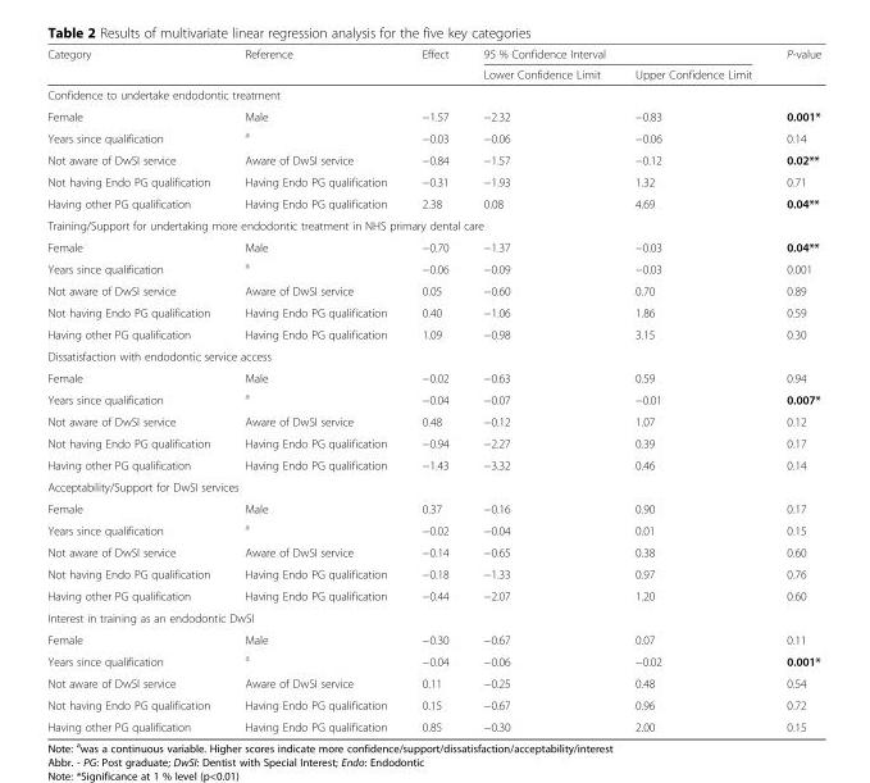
<table><thead><tr><td rowspan="2">Category</td><td rowspan="2">Reference</td><td rowspan="2">Effect</td><td colspan="2">95 % Confidence Interval</td><td rowspan="2">P-value</td></tr><tr><td>Lower Confidence Limit</td><td>Upper Confidence Limit</td></tr></thead><tbody><tr><td colspan="6">Confidence to undertake endodontic treatment</td></tr><tr><td>Female</td><td>Male</td><td>−1.57</td><td>−2.32</td><td>−0.83</td><td>0.001*</td></tr><tr><td>Years since qualification</td><td><sup>a</sup></td><td>−0.03</td><td>−0.06</td><td>−0.06</td><td>0.14</td></tr><tr><td>Not aware of DwSI service</td><td>Aware of DwSI service</td><td>−0.84</td><td>−1.57</td><td>−0.12</td><td>0.02**</td></tr><tr><td>Not having Endo PG qualification</td><td>Having Endo PG qualification</td><td>−0.31</td><td>−1.93</td><td>1.32</td><td>0.71</td></tr><tr><td>Having other PG qualification</td><td>Having Endo PG qualification</td><td>2.38</td><td>0.08</td><td>4.69</td><td>0.04**</td></tr><tr><td colspan="6">Training/Support for undertaking more endodontic treatment in NHS primary dental care</td></tr><tr><td>Female</td><td>Male</td><td>−0.70</td><td>−1.37</td><td>−0.03</td><td>0.04**</td></tr><tr><td>Years since qualification</td><td><sup>a</sup></td><td>−0.06</td><td>−0.09</td><td>−0.03</td><td>0.001</td></tr><tr><td>Not aware of DwSI service</td><td>Aware of DwSI service</td><td>0.05</td><td>−0.60</td><td>0.70</td><td>0.89</td></tr><tr><td>Not having Endo PG qualification</td><td>Having Endo PG qualification</td><td>0.40</td><td>−1.06</td><td>1.86</td><td>0.59</td></tr><tr><td>Having other PG qualification</td><td>Having Endo PG qualification</td><td>1.09</td><td>−0.98</td><td>3.15</td><td>0.30</td></tr><tr><td colspan="6">Dissatisfaction with endodontic service access</td></tr><tr><td>Female</td><td>Male</td><td>−0.02</td><td>−0.63</td><td>0.59</td><td>0.94</td></tr><tr><td>Years since qualification</td><td><sup>a</sup></td><td>−0.04</td><td>−0.07</td><td>−0.01</td><td>0.007*</td></tr><tr><td>Not aware of DwSI service</td><td>Aware of DwSI service</td><td>0.48</td><td>−0.12</td><td>1.07</td><td>0.12</td></tr><tr><td>Not having Endo PG qualification</td><td>Having Endo PG qualification</td><td>−0.94</td><td>−2.27</td><td>0.39</td><td>0.17</td></tr><tr><td>Having other PG qualification</td><td>Having Endo PG qualification</td><td>−1.43</td><td>−3.32</td><td>0.46</td><td>0.14</td></tr><tr><td colspan="6">Acceptability/Support for DwSI services</td></tr><tr><td>Female</td><td>Male</td><td>0.37</td><td>−0.16</td><td>0.90</td><td>0.17</td></tr><tr><td>Years since qualification</td><td><sup>a</sup></td><td>−0.02</td><td>−0.04</td><td>0.01</td><td>0.15</td></tr><tr><td>Not aware of DwSI service</td><td>Aware of DwSI service</td><td>−0.14</td><td>−0.65</td><td>0.38</td><td>0.60</td></tr><tr><td>Not having Endo PG qualification</td><td>Having Endo PG qualification</td><td>−0.18</td><td>−1.33</td><td>0.97</td><td>0.76</td></tr><tr><td>Having other PG qualification</td><td>Having Endo PG qualification</td><td>−0.44</td><td>−2.07</td><td>1.20</td><td>0.60</td></tr><tr><td colspan="6">Interest in training as an endodontic DwSI</td></tr><tr><td>Female</td><td>Male</td><td>−0.30</td><td>−0.67</td><td>0.07</td><td>0.11</td></tr><tr><td>Years since qualification</td><td><sup>a</sup></td><td>−0.04</td><td>−0.06</td><td>−0.02</td><td>0.001*</td></tr><tr><td>Not aware of DwSI service</td><td>Aware of DwSI service</td><td>0.11</td><td>−0.25</td><td>0.48</td><td>0.54</td></tr><tr><td>Not having Endo PG qualification</td><td>Having Endo PG qualification</td><td>0.15</td><td>−0.67</td><td>0.96</td><td>0.72</td></tr><tr><td>Having other PG qualification</td><td>Having Endo PG qualification</td><td>0.85</td><td>−0.30</td><td>2.00</td><td>0.15</td></tr></tbody></table>